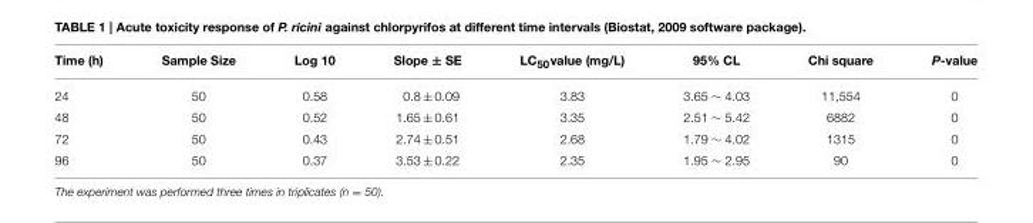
<table><thead><tr><td>Time (h)</td><td>Sample Size</td><td>Log 10</td><td>Slope ± SE</td><td>LC<sub>50</sub>value (mg/L)</td><td>95% CL</td><td>Chi square</td><td>P-value</td></tr></thead><tbody><tr><td>24</td><td>50</td><td>0.58</td><td>0.8 ± 0.09</td><td>3.83</td><td>3.65 ∼ 4.03</td><td>11,554</td><td>0</td></tr><tr><td>48</td><td>50</td><td>0.52</td><td>1.65 ± 0.61</td><td>3.35</td><td>2.51 ∼ 5.42</td><td>6882</td><td>0</td></tr><tr><td>72</td><td>50</td><td>0.43</td><td>2.74 ± 0.51</td><td>2.68</td><td>1.79 ∼ 4.02</td><td>1315</td><td>0</td></tr><tr><td>96</td><td>50</td><td>0.37</td><td>3.53 ± 0.22</td><td>2.35</td><td>1.95 ∼ 2.95</td><td>90</td><td>0</td></tr></tbody></table>